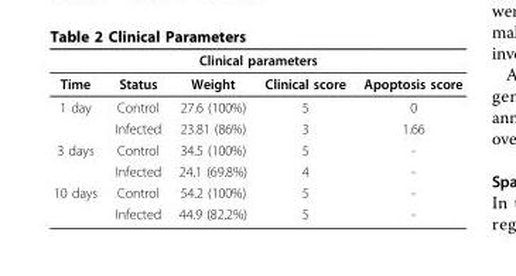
<table><thead><tr><td colspan="5">Clinical parameters</td></tr><tr><td>Time</td><td>Status</td><td>Weight</td><td>Clinical score</td><td>Apoptosis score</td></tr></thead><tbody><tr><td rowspan="2">1 day</td><td>Control</td><td>27.6 (100%)</td><td>5</td><td>0</td></tr><tr><td>Infected</td><td>23.81 (86%)</td><td>3</td><td>1.66</td></tr><tr><td rowspan="2">3 days</td><td>Control</td><td>34.5 (100%)</td><td>5</td><td>-</td></tr><tr><td>Infected</td><td>24.1 (69.8%)</td><td>4</td><td>-</td></tr><tr><td rowspan="2">10 days</td><td>Control</td><td>54.2 (100%)</td><td>5</td><td>-</td></tr><tr><td>Infected</td><td>44.9 (82.2%)</td><td>5</td><td>-</td></tr></tbody></table>